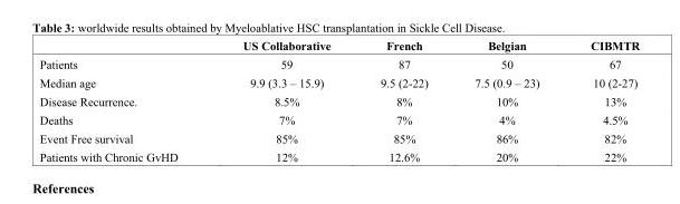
<table><thead><tr><td></td><td>US Collaborative</td><td>French</td><td>Belgian</td><td>CIBMTR</td></tr></thead><tbody><tr><td>Patients</td><td>59</td><td>87</td><td>50</td><td>67</td></tr><tr><td>Median age</td><td>9.9 (3.3 – 15.9)</td><td>9.5 (2-22)</td><td>7.5 (0.9 – 23)</td><td>10 (2-27)</td></tr><tr><td>Disease Recurrence.</td><td>8.5%</td><td>8%</td><td>10%</td><td>13%</td></tr><tr><td>Deaths</td><td>7%</td><td>7%</td><td>4%</td><td>4.5%</td></tr><tr><td>Event Free survival</td><td>85%</td><td>85%</td><td>86%</td><td>82%</td></tr><tr><td>Patients with Chronic GvHD</td><td>12%</td><td>12.6%</td><td>20%</td><td>22%</td></tr></tbody></table>